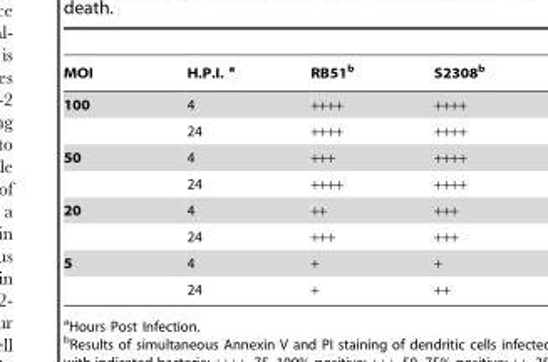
<table><thead><tr><td>MOI</td><td>H.P.I. a</td><td>RB51<sup>b</sup></td><td>S2308<sup>b</sup></td></tr></thead><tbody><tr><td rowspan="2">100</td><td>4</td><td>++++</td><td>++++</td></tr><tr><td>24</td><td>++++</td><td>++++</td></tr><tr><td rowspan="2">50</td><td>4</td><td>+++</td><td>++++</td></tr><tr><td>24</td><td>++++</td><td>++++</td></tr><tr><td rowspan="2">20</td><td>4</td><td>++</td><td>+++</td></tr><tr><td>24</td><td>+++</td><td>+++</td></tr><tr><td rowspan="2">5</td><td>4</td><td>+</td><td>+</td></tr><tr><td>24</td><td>+</td><td>++</td></tr></tbody></table>